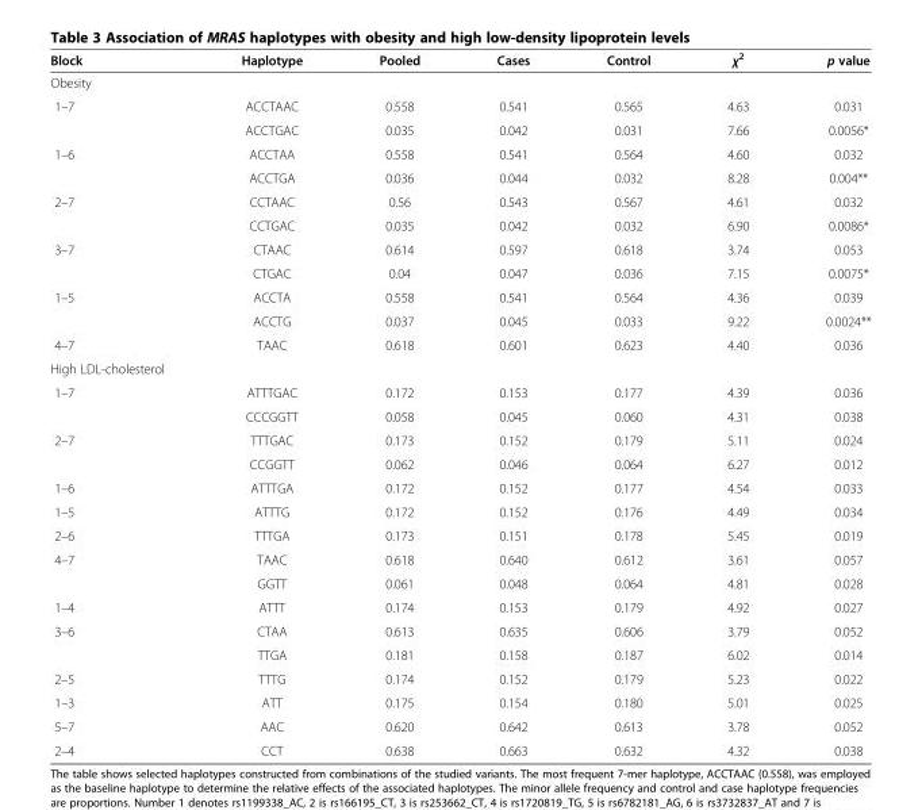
<table><thead><tr><td>Block</td><td>Haplotype</td><td>Pooled</td><td>Cases</td><td>Control</td><td>χ<sup>2</sup></td><td>p value</td></tr></thead><tbody><tr><td colspan="7">Obesity</td></tr><tr><td rowspan="2">1–7</td><td>ACCTAAC</td><td>0.558</td><td>0.541</td><td>0.565</td><td>4.63</td><td>0.031</td></tr><tr><td>ACCTGAC</td><td>0.035</td><td>0.042</td><td>0.031</td><td>7.66</td><td>0.0056*</td></tr><tr><td rowspan="2">1–6</td><td>ACCTAA</td><td>0.558</td><td>0.541</td><td>0.564</td><td>4.60</td><td>0.032</td></tr><tr><td>ACCTGA</td><td>0.036</td><td>0.044</td><td>0.032</td><td>8.28</td><td>0.004**</td></tr><tr><td rowspan="2">2–7</td><td>CCTAAC</td><td>0.56</td><td>0.543</td><td>0.567</td><td>4.61</td><td>0.032</td></tr><tr><td>CCTGAC</td><td>0.035</td><td>0.042</td><td>0.032</td><td>6.90</td><td>0.0086*</td></tr><tr><td rowspan="2">3–7</td><td>CTAAC</td><td>0.614</td><td>0.597</td><td>0.618</td><td>3.74</td><td>0.053</td></tr><tr><td>CTGAC</td><td>0.04</td><td>0.047</td><td>0.036</td><td>7.15</td><td>0.0075*</td></tr><tr><td rowspan="2">1–5</td><td>ACCTA</td><td>0.558</td><td>0.541</td><td>0.564</td><td>4.36</td><td>0.039</td></tr><tr><td>ACCTG</td><td>0.037</td><td>0.045</td><td>0.033</td><td>9.22</td><td>0.0024**</td></tr><tr><td>4–7</td><td>TAAC</td><td>0.618</td><td>0.601</td><td>0.623</td><td>4.40</td><td>0.036</td></tr><tr><td colspan="7">High LDL-cholesterol</td></tr><tr><td rowspan="2">1–7</td><td>ATTTGAC</td><td>0.172</td><td>0.153</td><td>0.177</td><td>4.39</td><td>0.036</td></tr><tr><td>CCCGGTT</td><td>0.058</td><td>0.045</td><td>0.060</td><td>4.31</td><td>0.038</td></tr><tr><td rowspan="2">2–7</td><td>TTTGAC</td><td>0.173</td><td>0.152</td><td>0.179</td><td>5.11</td><td>0.024</td></tr><tr><td>CCGGTT</td><td>0.062</td><td>0.046</td><td>0.064</td><td>6.27</td><td>0.012</td></tr><tr><td>1–6</td><td>ATTTGA</td><td>0.172</td><td>0.152</td><td>0.177</td><td>4.54</td><td>0.033</td></tr><tr><td>1–5</td><td>ATTTG</td><td>0.172</td><td>0.152</td><td>0.176</td><td>4.49</td><td>0.034</td></tr><tr><td>2–6</td><td>TTTGA</td><td>0.173</td><td>0.151</td><td>0.178</td><td>5.45</td><td>0.019</td></tr><tr><td rowspan="2">4–7</td><td>TAAC</td><td>0.618</td><td>0.640</td><td>0.612</td><td>3.61</td><td>0.057</td></tr><tr><td>GGTT</td><td>0.061</td><td>0.048</td><td>0.064</td><td>4.81</td><td>0.028</td></tr><tr><td>1–4</td><td>ATTT</td><td>0.174</td><td>0.153</td><td>0.179</td><td>4.92</td><td>0.027</td></tr><tr><td rowspan="2">3–6</td><td>CTAA</td><td>0.613</td><td>0.635</td><td>0.606</td><td>3.79</td><td>0.052</td></tr><tr><td>TTGA</td><td>0.181</td><td>0.158</td><td>0.187</td><td>6.02</td><td>0.014</td></tr><tr><td>2–5</td><td>TTTG</td><td>0.174</td><td>0.152</td><td>0.179</td><td>5.23</td><td>0.022</td></tr><tr><td>1–3</td><td>ATT</td><td>0.175</td><td>0.154</td><td>0.180</td><td>5.01</td><td>0.025</td></tr><tr><td>5–7</td><td>AAC</td><td>0.620</td><td>0.642</td><td>0.613</td><td>3.78</td><td>0.052</td></tr><tr><td>2–4</td><td>CCT</td><td>0.638</td><td>0.663</td><td>0.632</td><td>4.32</td><td>0.038</td></tr></tbody></table>